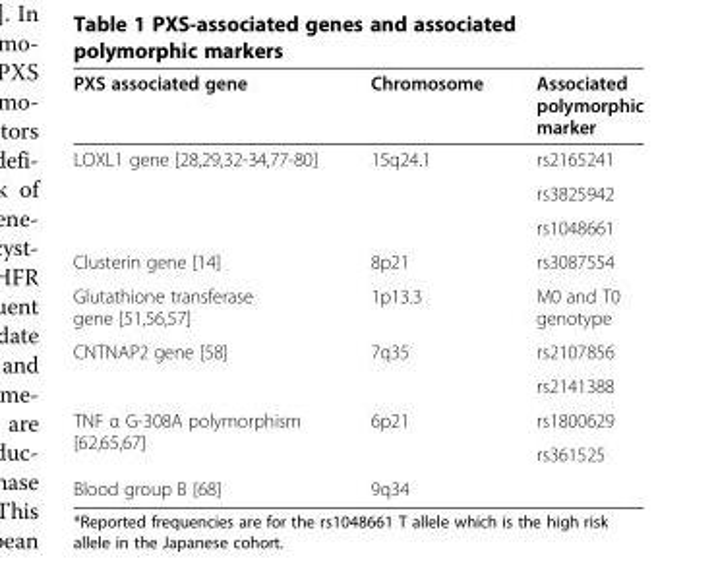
<table><thead><tr><td>PXS associated gene</td><td>Chromosome</td><td>Associated polymorphic marker</td></tr></thead><tbody><tr><td rowspan="3">LOXL1 gene [28,29,32-34,77-80]</td><td rowspan="3">15q24.1</td><td>rs2165241</td></tr><tr><td>rs3825942</td></tr><tr><td>rs1048661</td></tr><tr><td>Clusterin gene [14]</td><td>8p21</td><td>rs3087554</td></tr><tr><td>Glutathione transferase gene [51,56,57]</td><td>1p13.3</td><td>M0 and T0 genotype</td></tr><tr><td rowspan="2">CNTNAP2 gene [58]</td><td rowspan="2">7q35</td><td>rs2107856</td></tr><tr><td>rs2141388</td></tr><tr><td rowspan="2">TNF α G-308A polymorphism [62,65,67]</td><td rowspan="2">6p21</td><td>rs1800629</td></tr><tr><td>rs361525</td></tr><tr><td>Blood group B [68]</td><td>9q34</td><td></td></tr></tbody></table>